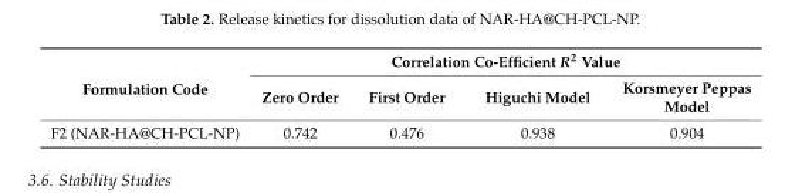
<table><thead><tr><td rowspan="2">Formulation Code</td><td colspan="4">Correlation Co-Efficient R<sup>2</sup> Value</td></tr><tr><td>Zero Order</td><td>First Order</td><td>Higuchi Model</td><td>Korsmeyer Peppas Model</td></tr></thead><tbody><tr><td>F2 (NAR-HA@CH-PCL-NP)</td><td>0.742</td><td>0.476</td><td>0.938</td><td>0.904</td></tr></tbody></table>